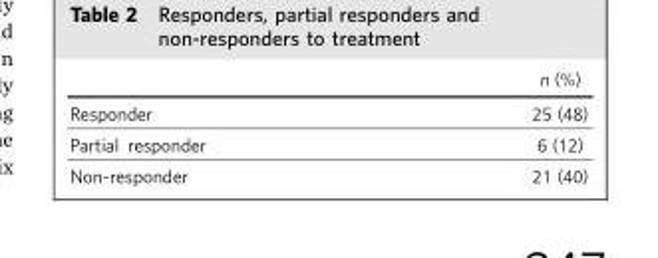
<table><thead><tr><td></td><td>n (%)</td></tr></thead><tbody><tr><td>Responder</td><td>25 (48)</td></tr><tr><td>Partial responder</td><td>6 (12)</td></tr><tr><td>Non-responder</td><td>21 (40)</td></tr></tbody></table>